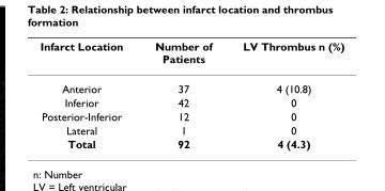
<table><thead><tr><td>Infarct Location</td><td>Number of Patients</td><td>LV Thrombus n (%)</td></tr></thead><tbody><tr><td>Anterior</td><td>37</td><td>4 (10.8)</td></tr><tr><td>Inferior</td><td>42</td><td>0</td></tr><tr><td>Posterior-Inferior</td><td>12</td><td>0</td></tr><tr><td>Lateral</td><td>1</td><td>0</td></tr><tr><td>Total</td><td>92</td><td>4 (4.3)</td></tr></tbody></table>